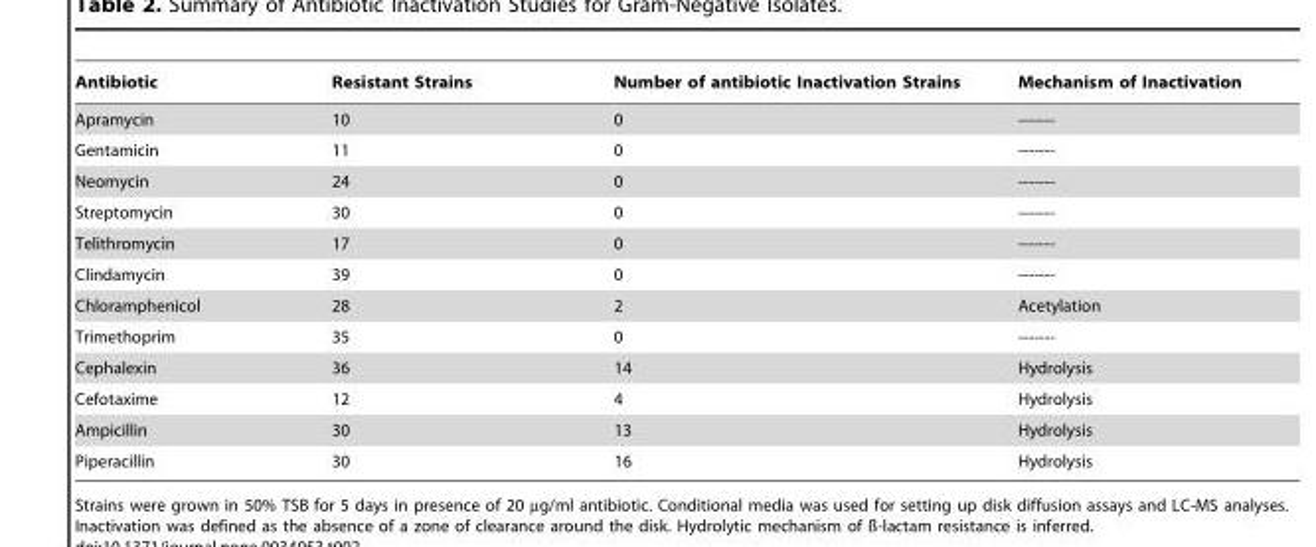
<table><thead><tr><td>Antibiotic</td><td>Resistant Strains</td><td>Number of antibiotic Inactivation Strains</td><td>Mechanism of Inactivation</td></tr></thead><tbody><tr><td>Apramycin</td><td>10</td><td>0</td><td>-------</td></tr><tr><td>Gentamicin</td><td>11</td><td>0</td><td>-------</td></tr><tr><td>Neomycin</td><td>24</td><td>0</td><td>-------</td></tr><tr><td>Streptomycin</td><td>30</td><td>0</td><td>-------</td></tr><tr><td>Telithromycin</td><td>17</td><td>0</td><td>-------</td></tr><tr><td>Clindamycin</td><td>39</td><td>0</td><td>-------</td></tr><tr><td>Chloramphenicol</td><td>28</td><td>2</td><td>Acetylation</td></tr><tr><td>Trimethoprim</td><td>35</td><td>0</td><td>-------</td></tr><tr><td>Cephalexin</td><td>36</td><td>14</td><td>Hydrolysis</td></tr><tr><td>Cefotaxime</td><td>12</td><td>4</td><td>Hydrolysis</td></tr><tr><td>Ampicillin</td><td>30</td><td>13</td><td>Hydrolysis</td></tr><tr><td>Piperacillin</td><td>30</td><td>16</td><td>Hydrolysis</td></tr></tbody></table>